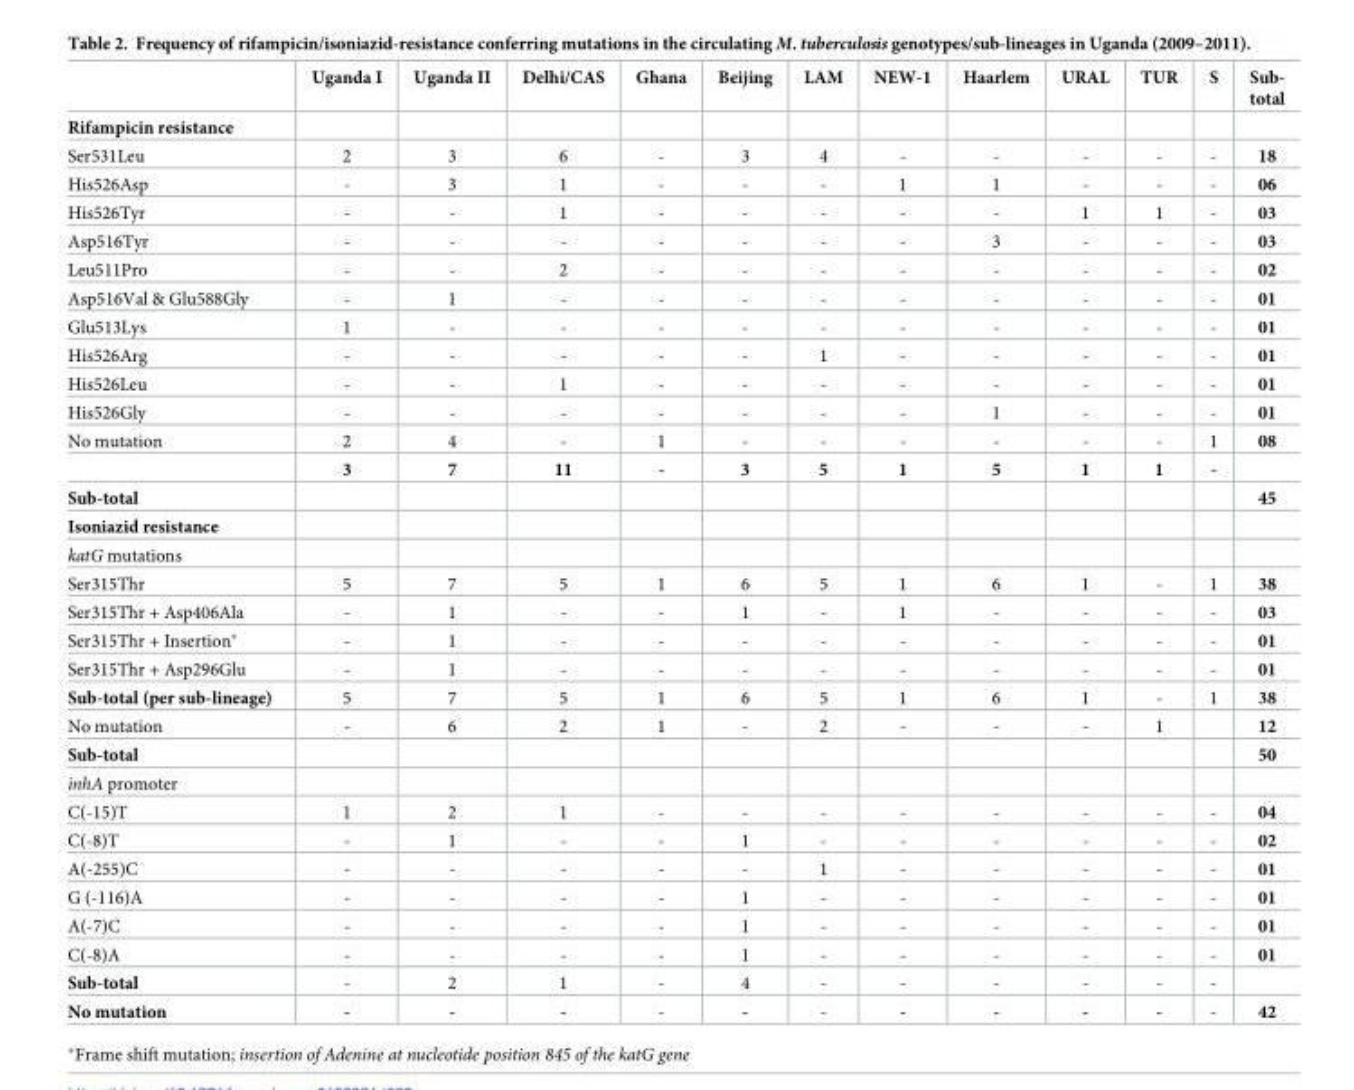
<table><thead><tr><td></td><td>Uganda I</td><td>Uganda II</td><td>Delhi/CAS</td><td>Ghana</td><td>Beijing</td><td>LAM</td><td>NEW-1</td><td>Haarlem</td><td>URAL</td><td>TUR</td><td>S</td><td>Sub- total</td></tr></thead><tbody><tr><td colspan="13">Rifampicin resistance</td></tr><tr><td>Ser531Leu</td><td>2</td><td>3</td><td>6</td><td>-</td><td>3</td><td>4</td><td>-</td><td>-</td><td>-</td><td>-</td><td>-</td><td>18</td></tr><tr><td>His526Asp</td><td>-</td><td>3</td><td>1</td><td>-</td><td>-</td><td>-</td><td>1</td><td>1</td><td>-</td><td>-</td><td>-</td><td>06</td></tr><tr><td>His526Tyr</td><td>-</td><td>-</td><td>1</td><td>-</td><td>-</td><td>-</td><td>-</td><td>-</td><td>1</td><td>1</td><td>-</td><td>03</td></tr><tr><td>Asp516Tyr</td><td>-</td><td>-</td><td>-</td><td>-</td><td>-</td><td>-</td><td>-</td><td>3</td><td>-</td><td>-</td><td>-</td><td>03</td></tr><tr><td>Leu511Pro</td><td>-</td><td>-</td><td>2</td><td>-</td><td>-</td><td>-</td><td>-</td><td>-</td><td>-</td><td>-</td><td>-</td><td>02</td></tr><tr><td>Asp516Val &amp; Glu588Gly</td><td>-</td><td>1</td><td>-</td><td>-</td><td>-</td><td>-</td><td>-</td><td>-</td><td>-</td><td>-</td><td>-</td><td>01</td></tr><tr><td>Glu513Lys</td><td>1</td><td>-</td><td>-</td><td>-</td><td>-</td><td>-</td><td>-</td><td>-</td><td>-</td><td>-</td><td>-</td><td>01</td></tr><tr><td>His526Arg</td><td>-</td><td>-</td><td>-</td><td>-</td><td>-</td><td>1</td><td>-</td><td>-</td><td>-</td><td>-</td><td>-</td><td>01</td></tr><tr><td>His526Leu</td><td>-</td><td>-</td><td>1</td><td>-</td><td>-</td><td>-</td><td>-</td><td>-</td><td>-</td><td>-</td><td>-</td><td>01</td></tr><tr><td>His526Gly</td><td>-</td><td>-</td><td>-</td><td>-</td><td>-</td><td>-</td><td>-</td><td>1</td><td>-</td><td>-</td><td>-</td><td>01</td></tr><tr><td rowspan="2">No mutation</td><td>2</td><td>4</td><td>-</td><td>1</td><td>-</td><td>-</td><td>-</td><td>-</td><td>-</td><td>-</td><td>1</td><td>08</td></tr><tr><td>3</td><td>7</td><td>11</td><td>-</td><td>3</td><td>5</td><td>1</td><td>5</td><td>1</td><td>1</td><td>-</td><td></td></tr><tr><td>Sub-total</td><td></td><td></td><td></td><td></td><td></td><td></td><td></td><td></td><td></td><td></td><td></td><td>45</td></tr><tr><td colspan="13">Isoniazid resistance</td></tr><tr><td colspan="13">katG mutations</td></tr><tr><td>Ser315Thr</td><td>5</td><td>7</td><td>5</td><td>1</td><td>6</td><td>5</td><td>1</td><td>6</td><td>1</td><td>-</td><td>1</td><td>38</td></tr><tr><td>Ser315Thr + Asp406Ala</td><td>-</td><td>1</td><td>-</td><td>-</td><td>1</td><td>-</td><td>1</td><td>-</td><td>-</td><td>-</td><td>-</td><td>03</td></tr><tr><td>Ser315Thr + Insertion*</td><td>-</td><td>1</td><td>-</td><td>-</td><td>-</td><td>-</td><td>-</td><td>-</td><td>-</td><td>-</td><td>-</td><td>01</td></tr><tr><td>Ser315Thr + Asp296Glu</td><td>-</td><td>1</td><td>-</td><td>-</td><td>-</td><td>-</td><td>-</td><td>-</td><td>-</td><td>-</td><td>-</td><td>01</td></tr><tr><td>Sub-total (per sub-lineage)</td><td>5</td><td>7</td><td>5</td><td>1</td><td>6</td><td>5</td><td>1</td><td>6</td><td>1</td><td>-</td><td>1</td><td>38</td></tr><tr><td>No mutation</td><td>-</td><td>6</td><td>2</td><td>1</td><td>-</td><td>2</td><td>-</td><td>-</td><td>-</td><td>1</td><td></td><td>12</td></tr><tr><td>Sub-total</td><td></td><td></td><td></td><td></td><td></td><td></td><td></td><td></td><td></td><td></td><td></td><td>50</td></tr><tr><td colspan="13">inhA promoter</td></tr><tr><td>C(-15)T</td><td>1</td><td>2</td><td>1</td><td>-</td><td>-</td><td>-</td><td>-</td><td>-</td><td>-</td><td>-</td><td>-</td><td>04</td></tr><tr><td>C(-8)T</td><td>-</td><td>1</td><td>-</td><td>-</td><td>1</td><td>-</td><td>-</td><td>-</td><td>-</td><td>-</td><td>-</td><td>02</td></tr><tr><td>A(-255)C</td><td>-</td><td>-</td><td>-</td><td>-</td><td>-</td><td>1</td><td>-</td><td>-</td><td>-</td><td>-</td><td>-</td><td>01</td></tr><tr><td>G (-116)A</td><td>-</td><td>-</td><td>-</td><td>-</td><td>1</td><td>-</td><td>-</td><td>-</td><td>-</td><td>-</td><td>-</td><td>01</td></tr><tr><td>A(-7)C</td><td>-</td><td>-</td><td>-</td><td>-</td><td>1</td><td>-</td><td>-</td><td>-</td><td>-</td><td>-</td><td>-</td><td>01</td></tr><tr><td>C(-8)A</td><td>-</td><td>-</td><td>-</td><td>-</td><td>1</td><td>-</td><td>-</td><td>-</td><td>-</td><td>-</td><td>-</td><td>01</td></tr><tr><td>Sub-total</td><td>-</td><td>2</td><td>1</td><td>-</td><td>4</td><td>-</td><td>-</td><td>-</td><td>-</td><td>-</td><td>-</td><td></td></tr><tr><td>No mutation</td><td>-</td><td>-</td><td>-</td><td>-</td><td>-</td><td>-</td><td>-</td><td>-</td><td>-</td><td>-</td><td>-</td><td>42</td></tr></tbody></table>